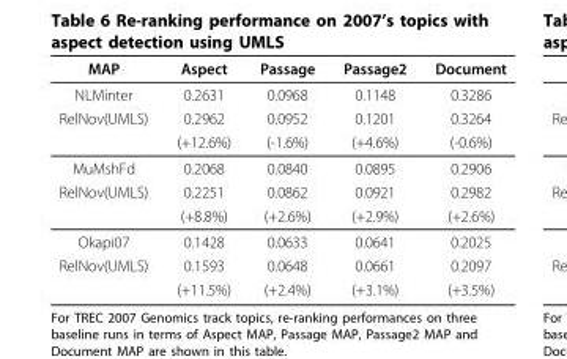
<table><thead><tr><td>MAP</td><td>Aspect</td><td>Passage</td><td>Passage2</td><td>Document</td></tr></thead><tbody><tr><td>NLMinter</td><td>0.2631</td><td>0.0968</td><td>0.1148</td><td>0.3286</td></tr><tr><td rowspan="2">RelNov(UMLS)</td><td>0.2962</td><td>0.0952</td><td>0.1201</td><td>0.3264</td></tr><tr><td>(+12.6%)</td><td>(-1.6%)</td><td>(+4.6%)</td><td>(-0.6%)</td></tr><tr><td>MuMshFd</td><td>0.2068</td><td>0.0840</td><td>0.0895</td><td>0.2906</td></tr><tr><td rowspan="2">RelNov(UMLS)</td><td>0.2251</td><td>0.0862</td><td>0.0921</td><td>0.2982</td></tr><tr><td>(+8.8%)</td><td>(+2.6%)</td><td>(+2.9%)</td><td>(+2.6%)</td></tr><tr><td>Okapi07</td><td>0.1428</td><td>0.0633</td><td>0.0641</td><td>0.2025</td></tr><tr><td rowspan="2">RelNov(UMLS)</td><td>0.1593</td><td>0.0648</td><td>0.0661</td><td>0.2097</td></tr><tr><td>(+11.5%)</td><td>(+2.4%)</td><td>(+3.1%)</td><td>(+3.5%)</td></tr></tbody></table>